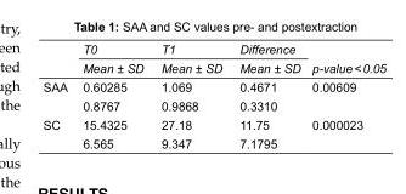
<table><thead><tr><td></td><td>T0</td><td>T1</td><td>Difference</td><td></td></tr></thead><tbody><tr><td></td><td>Mean ± SD</td><td>Mean ± SD</td><td>Mean ± SD</td><td>p-value &lt;</td></tr><tr><td rowspan="2">SAA</td><td>0.60285</td><td>1.069</td><td>0.4671</td><td>0.00609</td></tr><tr><td>0.8767</td><td>0.9868</td><td>0.3310</td><td></td></tr><tr><td rowspan="2">SC</td><td>15.4325</td><td>27.18</td><td>11.75</td><td>0.000023</td></tr><tr><td>6.565</td><td>9.347</td><td>7.1795</td><td></td></tr></tbody></table>